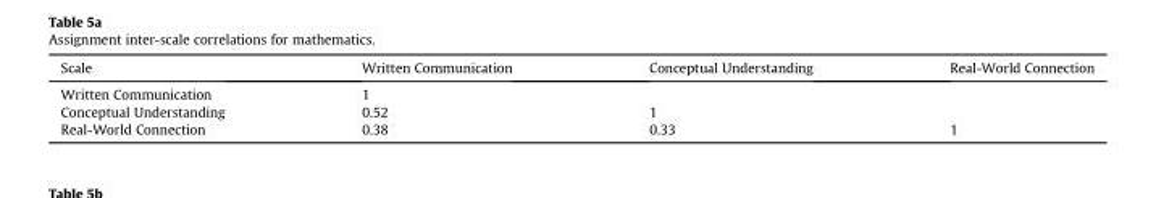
<table><thead><tr><td>Scale</td><td>Written Communication</td><td>Conceptual Understanding</td><td>Real-World Connection</td></tr></thead><tbody><tr><td>Written Communication</td><td>1</td><td></td><td></td></tr><tr><td>Conceptual Understanding</td><td>0.52</td><td>1</td><td></td></tr><tr><td>Real-World Connection</td><td>0.38</td><td>0.33</td><td>1</td></tr></tbody></table>